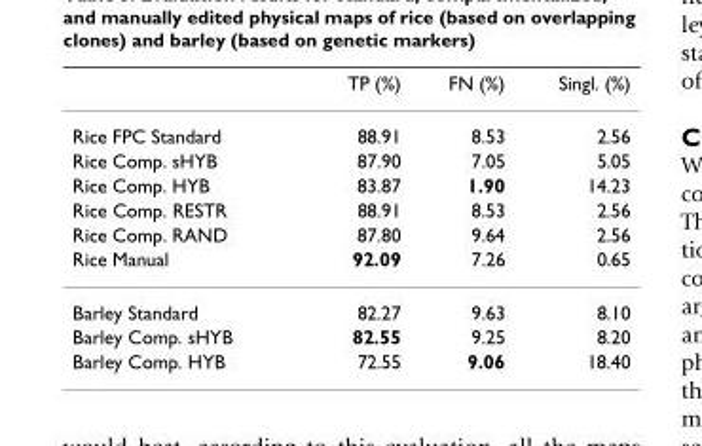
<table><thead><tr><td></td><td>TP (%)</td><td>FN (%)</td><td>Singl. (%)</td></tr></thead><tbody><tr><td>Rice FPC Standard</td><td>88.91</td><td>8.53</td><td>2.56</td></tr><tr><td>Rice Comp. sHYB</td><td>87.90</td><td>7.05</td><td>5.05</td></tr><tr><td>Rice Comp. HYB</td><td>83.87</td><td>1.90</td><td>14.23</td></tr><tr><td>Rice Comp. RESTR</td><td>88.91</td><td>8.53</td><td>2.56</td></tr><tr><td>Rice Comp. RAND</td><td>87.80</td><td>9.64</td><td>2.56</td></tr><tr><td>Rice Manual</td><td>92.09</td><td>7.26</td><td>0.65</td></tr><tr><td>Barley Standard</td><td>82.27</td><td>9.63</td><td>8.10</td></tr><tr><td>Barley Comp. sHYB</td><td>82.55</td><td>9.25</td><td>8.20</td></tr><tr><td>Barley Comp. HYB</td><td>72.55</td><td>9.06</td><td>18.40</td></tr></tbody></table>